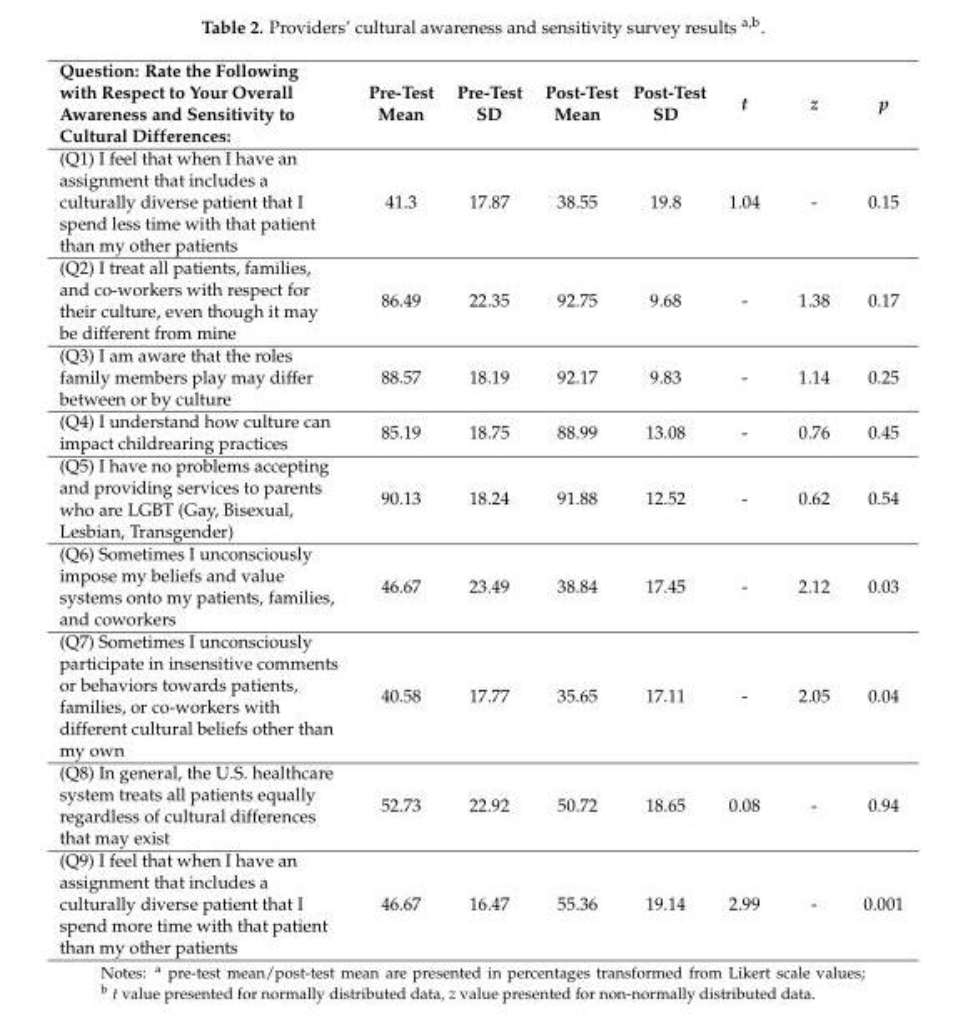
<table><thead><tr><td>Question: Rate the Following with Respect to Your Overall Awareness and Sensitivity to Cultural Differences:</td><td>Pre-Test Mean</td><td>Pre-Test SD</td><td>Post-Test Mean</td><td>Post-Test SD</td><td>t</td><td>z</td><td>p</td></tr></thead><tbody><tr><td>(Q1) I feel that when I have an assignment that includes a culturally diverse patient that I spend less time with that patient than my other patients</td><td>41.3</td><td>17.87</td><td>38.55</td><td>19.8</td><td>1.04</td><td>-</td><td>0.15</td></tr><tr><td>(Q2) I treat all patients, families, and co-workers with respect for their culture, even though it may be different from mine</td><td>86.49</td><td>22.35</td><td>92.75</td><td>9.68</td><td>-</td><td>1.38</td><td>0.17</td></tr><tr><td>(Q3) I am aware that the roles family members play may differ between or by culture</td><td>88.57</td><td>18.19</td><td>92.17</td><td>9.83</td><td>-</td><td>1.14</td><td>0.25</td></tr><tr><td>(Q4) I understand how culture can impact childrearing practices</td><td>85.19</td><td>18.75</td><td>88.99</td><td>13.08</td><td>-</td><td>0.76</td><td>0.45</td></tr><tr><td>(Q5) I have no problems accepting and providing services to parents who are LGBT (Gay, Bisexual, Lesbian, Transgender)</td><td>90.13</td><td>18.24</td><td>91.88</td><td>12.52</td><td>-</td><td>0.62</td><td>0.54</td></tr><tr><td>(Q6) Sometimes I unconsciously impose my beliefs and value systems onto my patients, families, and coworkers</td><td>46.67</td><td>23.49</td><td>38.84</td><td>17.45</td><td>-</td><td>2.12</td><td>0.03</td></tr><tr><td>(Q7) Sometimes I unconsciously participate in insensitive comments or behaviors towards patients, families, or co-workers with different cultural beliefs other than my own</td><td>40.58</td><td>17.77</td><td>35.65</td><td>17.11</td><td>-</td><td>2.05</td><td>0.04</td></tr><tr><td>(Q8) In general, the U.S. healthcare system treats all patients equally regardless of cultural differences that may exist</td><td>52.73</td><td>22.92</td><td>50.72</td><td>18.65</td><td>0.08</td><td>-</td><td>0.94</td></tr><tr><td>(Q9) I feel that when I have an assignment that includes a culturally diverse patient that I spend more time with that patient than my other patients</td><td>46.67</td><td>16.47</td><td>55.36</td><td>19.14</td><td>2.99</td><td>-</td><td>0.001</td></tr></tbody></table>